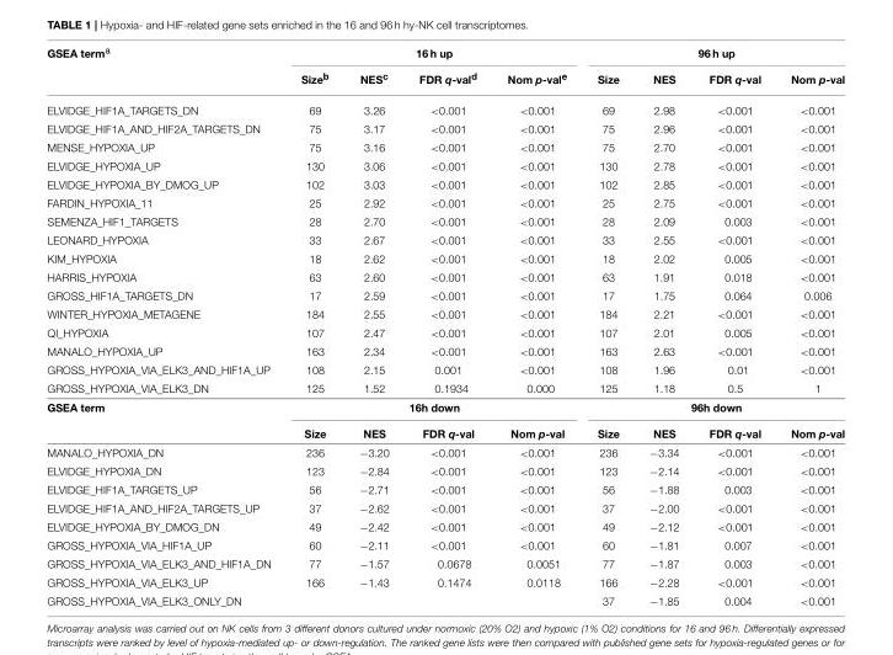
<table><thead><tr><td rowspan="2">GSEA term<sup>a</sup></td><td colspan="4">16 h up</td><td colspan="4">96 h up</td></tr><tr><td>Size<sup>b</sup></td><td>NES<sup>c</sup></td><td>FDR q-val<sup>d</sup></td><td>Nom p-val<sup>e</sup></td><td>Size</td><td>NES</td><td>FDR q-val</td><td>Nom p-val</td></tr></thead><tbody><tr><td>ELVIDGE_HIF1A_TARGETS_DN</td><td>69</td><td>3.26</td><td>&lt;0.001</td><td>&lt;0.001</td><td>69</td><td>2.98</td><td>&lt;0.001</td><td>&lt;0.001</td></tr><tr><td>ELVIDGE_HIF1A_AND_HIF2A_TARGETS_DN</td><td>75</td><td>3.17</td><td>&lt;0.001</td><td>&lt;0.001</td><td>75</td><td>2.96</td><td>&lt;0.001</td><td>&lt;0.001</td></tr><tr><td>MENSE_HYPOXIA_UP</td><td>75</td><td>3.16</td><td>&lt;0.001</td><td>&lt;0.001</td><td>75</td><td>2.70</td><td>&lt;0.001</td><td>&lt;0.001</td></tr><tr><td>ELVIDGE_HYPOXIA_UP</td><td>130</td><td>3.06</td><td>&lt;0.001</td><td>&lt;0.001</td><td>130</td><td>2.78</td><td>&lt;0.001</td><td>&lt;0.001</td></tr><tr><td>ELVIDGE_HYPOXIA_BY_DMOG_UP</td><td>102</td><td>3.03</td><td>&lt;0.001</td><td>&lt;0.001</td><td>102</td><td>2.85</td><td>&lt;0.001</td><td>&lt;0.001</td></tr><tr><td>FARDIN_HYPOXIA_11</td><td>25</td><td>2.92</td><td>&lt;0.001</td><td>&lt;0.001</td><td>25</td><td>2.75</td><td>&lt;0.001</td><td>&lt;0.001</td></tr><tr><td>SEMENZA_HIF1_TARGETS</td><td>28</td><td>2.70</td><td>&lt;0.001</td><td>&lt;0.001</td><td>28</td><td>2.09</td><td>0.003</td><td>&lt;0.001</td></tr><tr><td>LEONARD_HYPOXIA</td><td>33</td><td>2.67</td><td>&lt;0.001</td><td>&lt;0.001</td><td>33</td><td>2.55</td><td>&lt;0.001</td><td>&lt;0.001</td></tr><tr><td>KIM_HYPOXIA</td><td>18</td><td>2.62</td><td>&lt;0.001</td><td>&lt;0.001</td><td>18</td><td>2.02</td><td>0.005</td><td>&lt;0.001</td></tr><tr><td>HARRIS_HYPOXIA</td><td>63</td><td>2.60</td><td>&lt;0.001</td><td>&lt;0.001</td><td>63</td><td>1.91</td><td>0.018</td><td>&lt;0.001</td></tr><tr><td>GROSS_HIF1A_TARGETS_DN</td><td>17</td><td>2.59</td><td>&lt;0.001</td><td>&lt;0.001</td><td>17</td><td>1.75</td><td>0.064</td><td>0.006</td></tr><tr><td>WINTER_HYPOXIA_METAGENE</td><td>184</td><td>2.55</td><td>&lt;0.001</td><td>&lt;0.001</td><td>184</td><td>2.21</td><td>&lt;0.001</td><td>&lt;0.001</td></tr><tr><td>QI_HYPOXIA</td><td>107</td><td>2.47</td><td>&lt;0.001</td><td>&lt;0.001</td><td>107</td><td>2.01</td><td>0.005</td><td>&lt;0.001</td></tr><tr><td>MANALO_HYPOXIA_UP</td><td>163</td><td>2.34</td><td>&lt;0.001</td><td>&lt;0.001</td><td>163</td><td>2.63</td><td>&lt;0.001</td><td>&lt;0.001</td></tr><tr><td>GROSS_HYPOXIA_VIA_ELK3_AND_HIF1A_UP</td><td>108</td><td>2.15</td><td>0.001</td><td>&lt;0.001</td><td>108</td><td>1.96</td><td>0.01</td><td>&lt;0.001</td></tr><tr><td>GROSS_HYPOXIA_VIA_ELK3_DN</td><td>125</td><td>1.52</td><td>0.1934</td><td>0.000</td><td>125</td><td>1.18</td><td>0.5</td><td>1</td></tr><tr><td rowspan="2">GSEA term</td><td colspan="4">16h down</td><td colspan="4">96h down</td></tr><tr><td>Size</td><td>NES</td><td>FDR q-val</td><td>Nom p-val</td><td>Size</td><td>NES</td><td>FDR q-val</td><td>Nom p-val</td></tr><tr><td>MANALO_HYPOXIA_DN</td><td>236</td><td>−3.20</td><td>&lt;0.001</td><td>&lt;0.001</td><td>236</td><td>−3.34</td><td>&lt;0.001</td><td>&lt;0.001</td></tr><tr><td>ELVIDGE_HYPOXIA_DN</td><td>123</td><td>−2.84</td><td>&lt;0.001</td><td>&lt;0.001</td><td>123</td><td>−2.14</td><td>&lt;0.001</td><td>&lt;0.001</td></tr><tr><td>ELVIDGE_HIF1A_TARGETS_UP</td><td>56</td><td>−2.71</td><td>&lt;0.001</td><td>&lt;0.001</td><td>56</td><td>−1.88</td><td>0.003</td><td>&lt;0.001</td></tr><tr><td>ELVIDGE_HIF1A_AND_HIF2A_TARGETS_UP</td><td>37</td><td>−2.62</td><td>&lt;0.001</td><td>&lt;0.001</td><td>37</td><td>−2.00</td><td>&lt;0.001</td><td>&lt;0.001</td></tr><tr><td>ELVIDGE_HYPOXIA_BY_DMOG_DN</td><td>49</td><td>−2.42</td><td>&lt;0.001</td><td>&lt;0.001</td><td>49</td><td>−2.12</td><td>&lt;0.001</td><td>&lt;0.001</td></tr><tr><td>GROSS_HYPOXIA_VIA_HIF1A_UP</td><td>60</td><td>−2.11</td><td>&lt;0.001</td><td>&lt;0.001</td><td>60</td><td>−1.81</td><td>0.007</td><td>&lt;0.001</td></tr><tr><td>GROSS_HYPOXIA_VIA_ELK3_AND_HIF1A_DN</td><td>77</td><td>−1.57</td><td>0.0678</td><td>0.0051</td><td>77</td><td>−1.87</td><td>0.003</td><td>&lt;0.001</td></tr><tr><td>GROSS_HYPOXIA_VIA_ELK3_UP</td><td>166</td><td>−1.43</td><td>0.1474</td><td>0.0118</td><td>166</td><td>−2.28</td><td>&lt;0.001</td><td>&lt;0.001</td></tr><tr><td>GROSS_HYPOXIA_VIA_ELK3_ONLY_DN</td><td></td><td></td><td></td><td></td><td>37</td><td>−1.85</td><td>0.004</td><td>&lt;0.001</td></tr></tbody></table>